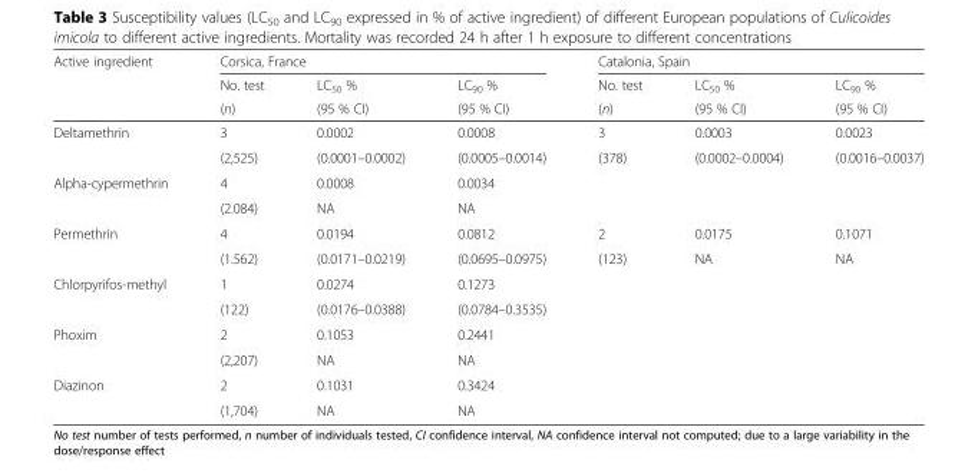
<table><thead><tr><td rowspan="3">Active ingredient</td><td colspan="3">Corsica, France</td><td colspan="3">Catalonia, Spain</td></tr><tr><td rowspan="2">No. test (n)</td><td rowspan="2">LC<sub>50</sub> % (95 % CI)</td><td rowspan="2">LC<sub>90</sub> % (95 % CI)</td><td rowspan="2">No. test (n)</td><td rowspan="2">LC<sub>50</sub> % (95 % CI)</td><td rowspan="2">LC<sub>90</sub> % (95 % CI)</td></tr><tr></tr></thead><tbody><tr><td rowspan="2">Deltamethrin</td><td>3</td><td>0.0002</td><td>0.0008</td><td>3</td><td>0.0003</td><td>0.0023</td></tr><tr><td>(2,525)</td><td>(0.0001–0.0002)</td><td>(0.0005–0.0014)</td><td>(378)</td><td>(0.0002–0.0004)</td><td>(0.0016–0.0037)</td></tr><tr><td rowspan="2">Alpha-cypermethrin</td><td>4</td><td>0.0008</td><td>0.0034</td><td></td><td></td><td></td></tr><tr><td>(2.084)</td><td>NA</td><td>NA</td><td></td><td></td><td></td></tr><tr><td rowspan="2">Permethrin</td><td>4</td><td>0.0194</td><td>0.0812</td><td>2</td><td>0.0175</td><td>0.1071</td></tr><tr><td>(1.562)</td><td>(0.0171–0.0219)</td><td>(0.0695–0.0975)</td><td>(123)</td><td>NA</td><td>NA</td></tr><tr><td rowspan="2">Chlorpyrifos-methyl</td><td>1</td><td>0.0274</td><td>0.1273</td><td></td><td></td><td></td></tr><tr><td>(122)</td><td>(0.0176–0.0388)</td><td>(0.0784–0.3535)</td><td></td><td></td><td></td></tr><tr><td rowspan="2">Phoxim</td><td>2</td><td>0.1053</td><td>0.2441</td><td></td><td></td><td></td></tr><tr><td>(2,207)</td><td>NA</td><td>NA</td><td></td><td></td><td></td></tr><tr><td rowspan="2">Diazinon</td><td>2</td><td>0.1031</td><td>0.3424</td><td></td><td></td><td></td></tr><tr><td>(1,704)</td><td>NA</td><td>NA</td><td></td><td></td><td></td></tr></tbody></table>